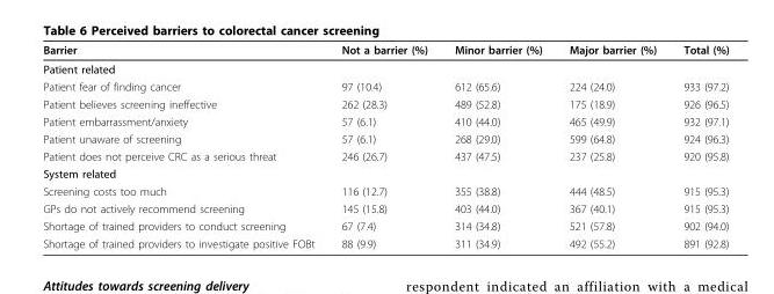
<table><thead><tr><td>Barrier</td><td>Not a barrier (%)</td><td>Minor barrier (%)</td><td>Major barrier (%)</td><td>Total (%)</td></tr></thead><tbody><tr><td colspan="5">Patient related</td></tr><tr><td>Patient fear of finding cancer</td><td>97 (10.4)</td><td>612 (65.6)</td><td>224 (24.0)</td><td>933 (97.2)</td></tr><tr><td>Patient believes screening ineffective</td><td>262 (28.3)</td><td>489 (52.8)</td><td>175 (18.9)</td><td>926 (96.5)</td></tr><tr><td>Patient embarrassment/anxiety</td><td>57 (6.1)</td><td>410 (44.0)</td><td>465 (49.9)</td><td>932 (97.1)</td></tr><tr><td>Patient unaware of screening</td><td>57 (6.1)</td><td>268 (29.0)</td><td>599 (64.8)</td><td>924 (96.3)</td></tr><tr><td>Patient does not perceive CRC as a serious threat</td><td>246 (26.7)</td><td>437 (47.5)</td><td>237 (25.8)</td><td>920 (95.8)</td></tr><tr><td colspan="5">System related</td></tr><tr><td>Screening costs too much</td><td>116 (12.7)</td><td>355 (38.8)</td><td>444 (48.5)</td><td>915 (95.3)</td></tr><tr><td>GPs do not actively recommend screening</td><td>145 (15.8)</td><td>403 (44.0)</td><td>367 (40.1)</td><td>915 (95.3)</td></tr><tr><td>Shortage of trained providers to conduct screening</td><td>67 (7.4)</td><td>314 (34.8)</td><td>521 (57.8)</td><td>902 (94.0)</td></tr><tr><td>Shortage of trained providers to investigate positive FOBt</td><td>88 (9.9)</td><td>311 (34.9)</td><td>492 (55.2)</td><td>891 (92.8)</td></tr></tbody></table>